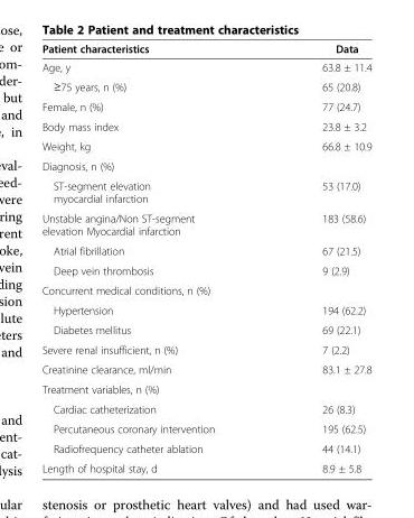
<table><thead><tr><td>Patient characteristics</td><td>Data</td></tr></thead><tbody><tr><td>Age, y</td><td>63.8 ± 11.4</td></tr><tr><td>≥75 years, n (%)</td><td>65 (20.8)</td></tr><tr><td>Female, n (%)</td><td>77 (24.7)</td></tr><tr><td>Body mass index</td><td>23.8 ± 3.2</td></tr><tr><td>Weight, kg</td><td>66.8 ± 10.9</td></tr><tr><td colspan="2">Diagnosis, n (%)</td></tr><tr><td>ST-segment elevation myocardial infarction</td><td>53 (17.0)</td></tr><tr><td>Unstable angina/Non ST-segment elevation Myocardial infarction</td><td>183 (58.6)</td></tr><tr><td>Atrial fibrillation</td><td>67 (21.5)</td></tr><tr><td>Deep vein thrombosis</td><td>9 (2.9)</td></tr><tr><td colspan="2">Concurrent medical conditions, n (%)</td></tr><tr><td>Hypertension</td><td>194 (62.2)</td></tr><tr><td>Diabetes mellitus</td><td>69 (22.1)</td></tr><tr><td>Severe renal insufficient, n (%)</td><td>7 (2.2)</td></tr><tr><td>Creatinine clearance, ml/min</td><td>83.1 ± 27.8</td></tr><tr><td colspan="2">Treatment variables, n (%)</td></tr><tr><td>Cardiac catheterization</td><td>26 (8.3)</td></tr><tr><td>Percutaneous coronary intervention</td><td>195 (62.5)</td></tr><tr><td>Radiofrequency catheter ablation</td><td>44 (14.1)</td></tr><tr><td>Length of hospital stay, d</td><td>8.9 ± 5.8</td></tr></tbody></table>